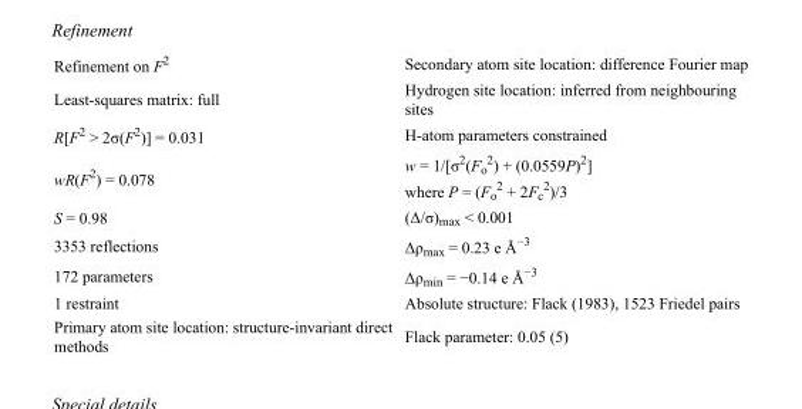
<table><tbody><tr><td>Refinement on F<sup>2</sup></td><td>Secondary atom site location: difference Fourier map</td></tr><tr><td>Least-squares matrix: full</td><td>Hydrogen site location: inferred from neighbouring sites</td></tr><tr><td>R[F<sup>2</sup> &gt; 2σ(F<sup>2</sup>)] = 0.031</td><td>H-atom parameters constrained</td></tr><tr><td>wR(F<sup>2</sup>) = 0.078</td><td>w = 1/[σ<sup>2</sup>(F<sub>o</sub> <sup>2</sup>) + (0.0559P)<sup>2</sup>] where P = (F<sub>o</sub> <sup>2</sup> + 2F<sub>c</sub> <sup>2</sup>)/3</td></tr><tr><td>S = 0.98</td><td>(Δ/σ)<sub>max</sub> &lt; 0.001</td></tr><tr><td>3353 reflections</td><td>Δρ<sub>max</sub> = 0.23 e Å<sup>−3</sup></td></tr><tr><td>172 parameters</td><td>Δρ<sub>min</sub> = −0.14 e Å<sup>−3</sup></td></tr><tr><td>1 restraint</td><td>Absolute structure: Flack (1983), 1523 Friedel pairs</td></tr><tr><td>Primary atom site location: structure-invariant direct methods</td><td>Flack parameter: 0.05 (5)</td></tr></tbody></table>